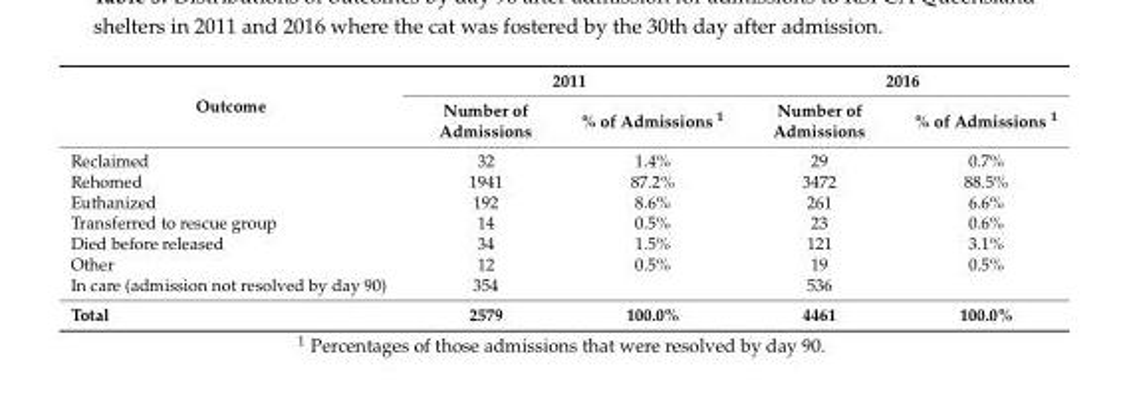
<table><thead><tr><td rowspan="2">Outcome</td><td colspan="2">2011</td><td colspan="2">2016</td></tr><tr><td>Number of Admissions</td><td>% of Admissions <sup>1</sup></td><td>Number of Admissions</td><td>% of Admissions <sup>1</sup></td></tr></thead><tbody><tr><td>Reclaimed</td><td>32</td><td>1.4%</td><td>29</td><td>0.7%</td></tr><tr><td>Rehomed</td><td>1941</td><td>87.2%</td><td>3472</td><td>88.5%</td></tr><tr><td>Euthanized</td><td>192</td><td>8.6%</td><td>261</td><td>6.6%</td></tr><tr><td>Transferred to rescue group</td><td>14</td><td>0.5%</td><td>23</td><td>0.6%</td></tr><tr><td>Died before released</td><td>34</td><td>1.5%</td><td>121</td><td>3.1%</td></tr><tr><td>Other</td><td>12</td><td>0.5%</td><td>19</td><td>0.5%</td></tr><tr><td>In care (admission not resolved by day 90)</td><td>354</td><td></td><td>536</td><td></td></tr><tr><td>Total</td><td>2579</td><td>100.0%</td><td>4461</td><td>100.0%</td></tr></tbody></table>